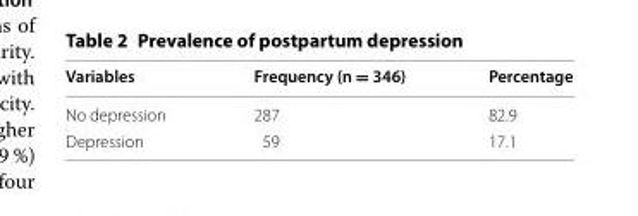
<table><thead><tr><td>Variables</td><td>Frequency (n = 346)</td><td>Percentage</td></tr></thead><tbody><tr><td>No depression</td><td>287</td><td>82.9</td></tr><tr><td>Depression</td><td>59</td><td>17.1</td></tr></tbody></table>